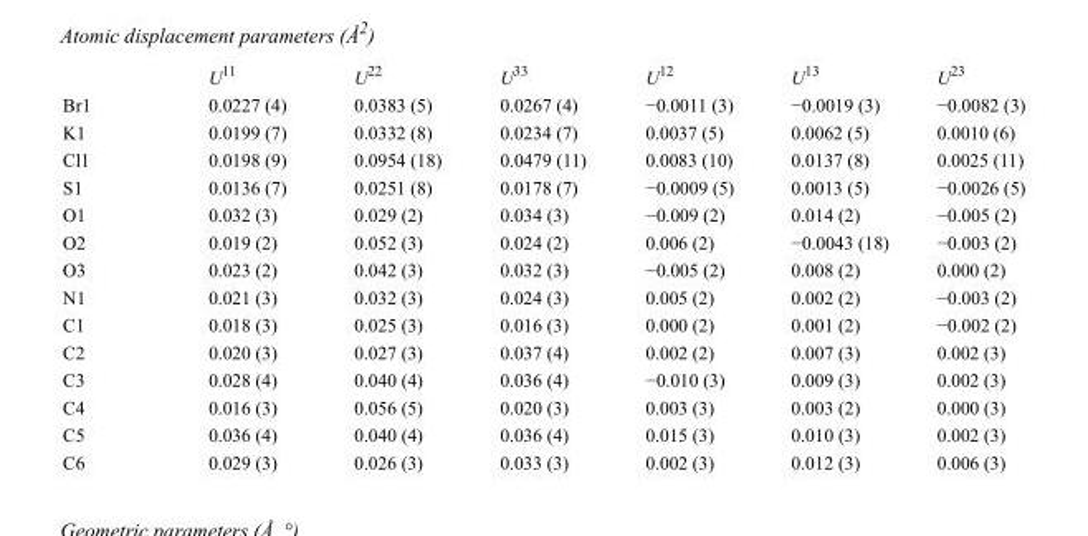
<table><thead><tr><td></td><td>U<sup>11</sup></td><td>U<sup>22</sup></td><td>U<sup>33</sup></td><td>U<sup>12</sup></td><td>U<sup>13</sup></td><td>U<sup>23</sup></td></tr></thead><tbody><tr><td>Br1</td><td>0.0227 (4)</td><td>0.0383 (5)</td><td>0.0267 (4)</td><td>−0.0011 (3)</td><td>−0.0019 (3)</td><td>−0.0082 (3)</td></tr><tr><td>K1</td><td>0.0199 (7)</td><td>0.0332 (8)</td><td>0.0234 (7)</td><td>0.0037 (5)</td><td>0.0062 (5)</td><td>0.0010 (6)</td></tr><tr><td>Cl1</td><td>0.0198 (9)</td><td>0.0954 (18)</td><td>0.0479 (11)</td><td>0.0083 (10)</td><td>0.0137 (8)</td><td>0.0025 (11)</td></tr><tr><td>S1</td><td>0.0136 (7)</td><td>0.0251 (8)</td><td>0.0178 (7)</td><td>−0.0009 (5)</td><td>0.0013 (5)</td><td>−0.0026 (5)</td></tr><tr><td>O1</td><td>0.032 (3)</td><td>0.029 (2)</td><td>0.034 (3)</td><td>−0.009 (2)</td><td>0.014 (2)</td><td>−0.005 (2)</td></tr><tr><td>O2</td><td>0.019 (2)</td><td>0.052 (3)</td><td>0.024 (2)</td><td>0.006 (2)</td><td>−0.0043 (18)</td><td>−0.003 (2)</td></tr><tr><td>O3</td><td>0.023 (2)</td><td>0.042 (3)</td><td>0.032 (3)</td><td>−0.005 (2)</td><td>0.008 (2)</td><td>0.000 (2)</td></tr><tr><td>N1</td><td>0.021 (3)</td><td>0.032 (3)</td><td>0.024 (3)</td><td>0.005 (2)</td><td>0.002 (2)</td><td>−0.003 (2)</td></tr><tr><td>C1</td><td>0.018 (3)</td><td>0.025 (3)</td><td>0.016 (3)</td><td>0.000 (2)</td><td>0.001 (2)</td><td>−0.002 (2)</td></tr><tr><td>C2</td><td>0.020 (3)</td><td>0.027 (3)</td><td>0.037 (4)</td><td>0.002 (2)</td><td>0.007 (3)</td><td>0.002 (3)</td></tr><tr><td>C3</td><td>0.028 (4)</td><td>0.040 (4)</td><td>0.036 (4)</td><td>−0.010 (3)</td><td>0.009 (3)</td><td>0.002 (3)</td></tr><tr><td>C4</td><td>0.016 (3)</td><td>0.056 (5)</td><td>0.020 (3)</td><td>0.003 (3)</td><td>0.003 (2)</td><td>0.000 (3)</td></tr><tr><td>C5</td><td>0.036 (4)</td><td>0.040 (4)</td><td>0.036 (4)</td><td>0.015 (3)</td><td>0.010 (3)</td><td>0.002 (3)</td></tr><tr><td>C6</td><td>0.029 (3)</td><td>0.026 (3)</td><td>0.033 (3)</td><td>0.002 (3)</td><td>0.012 (3)</td><td>0.006 (3)</td></tr></tbody></table>